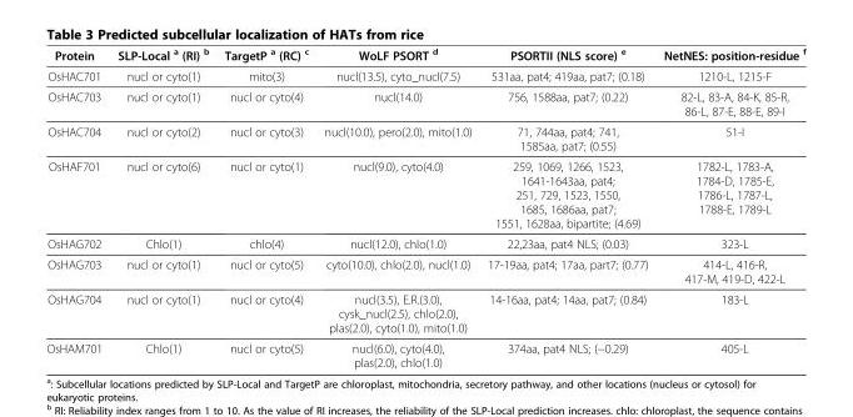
<table><thead><tr><td>Protein</td><td>SLP-Local <sup>a</sup> (RI) <sup>b</sup></td><td>TargetP <sup>a</sup> (RC) <sup>c</sup></td><td>WoLF PSORT <sup>d</sup></td><td>PSORTII (NLS score) <sup>e</sup></td><td>NetNES: position-residue <sup>f</sup></td></tr></thead><tbody><tr><td>OsHAC701</td><td>nucl or cyto(1)</td><td>mito(3)</td><td>nucl(13.5), cyto_nucl(7.5)</td><td>531aa, pat4; 419aa, pat7; (0.18)</td><td>1210-L, 1215-F</td></tr><tr><td>OsHAC703</td><td>nucl or cyto(1)</td><td>nucl or cyto(4)</td><td>nucl(14.0)</td><td>756, 1588aa, pat7; (0.22)</td><td>82-L, 83-A, 84-K, 85-R, 86-L, 87-E, 88-E, 89-I</td></tr><tr><td>OsHAC704</td><td>nucl or cyto(2)</td><td>nucl or cyto(3)</td><td>nucl(10.0), pero(2.0), mito(1.0)</td><td>71, 744aa, pat4; 741, 1585aa, pat7; (0.55)</td><td>51-I</td></tr><tr><td>OsHAF701</td><td>nucl or cyto(6)</td><td>nucl or cyto(1)</td><td>nucl(9.0), cyto(4.0)</td><td>259, 1069, 1266, 1523, 1641-1643aa, pat4; 251, 729, 1523, 1550, 1685, 1686aa, pat7; 1551, 1628aa, bipartite; (4.69)</td><td>1782-L, 1783-A, 1784-D, 1785-E, 1786-L, 1787-L, 1788-E, 1789-L</td></tr><tr><td>OsHAG702</td><td>Chlo(1)</td><td>chlo(4)</td><td>nucl(12.0), chlo(1.0)</td><td>22,23aa, pat4 NLS; (0.03)</td><td>323-L</td></tr><tr><td>OsHAG703</td><td>nucl or cyto(1)</td><td>nucl or cyto(5)</td><td>cyto(10.0), chlo(2.0), nucl(1.0)</td><td>17-19aa, pat4; 17aa, part7; (0.77)</td><td>414-L, 416-R, 417-M, 419-D, 422-L</td></tr><tr><td>OsHAG704</td><td>nucl or cyto(1)</td><td>nucl or cyto(4)</td><td>nucl(3.5), E.R.(3.0), cysk_nucl(2.5), chlo(2.0), plas(2.0), cyto(1.0), mito(1.0)</td><td>14-16aa, pat4; 14aa, pat7; (0.84)</td><td>183-L</td></tr><tr><td>OsHAM701</td><td>Chlo(1)</td><td>nucl or cyto(5)</td><td>nucl(6.0), cyto(4.0), plas(2.0), chlo(1.0)</td><td>374aa, pat4 NLS; (−0.29)</td><td>405-L</td></tr></tbody></table>